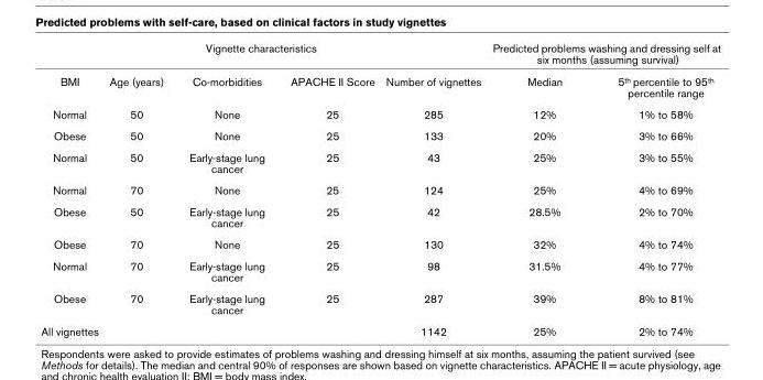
<table><thead><tr><td colspan="5">Vignette characteristics</td><td colspan="2">Predicted problems washing and dressing self at six months (assuming survival)</td></tr><tr><td>BMI</td><td>Age (years)</td><td>Co-morbidities</td><td>APACHE II Score</td><td>Number of vignettes</td><td>Median</td><td>5<sup>th</sup> percentile to 95<sup>th</sup> percentile range</td></tr></thead><tbody><tr><td>Normal</td><td>50</td><td>None</td><td>25</td><td>285</td><td>12%</td><td>1% to 58%</td></tr><tr><td>Obese</td><td>50</td><td>None</td><td>25</td><td>133</td><td>20%</td><td>3% to 66%</td></tr><tr><td>Normal</td><td>50</td><td>Early-stage lung cancer</td><td>25</td><td>43</td><td>25%</td><td>3% to 55%</td></tr><tr><td>Normal</td><td>70</td><td>None</td><td>25</td><td>124</td><td>25%</td><td>4% to 69%</td></tr><tr><td>Obese</td><td>50</td><td>Early-stage lung cancer</td><td>25</td><td>42</td><td>28.5%</td><td>2% to 70%</td></tr><tr><td>Obese</td><td>70</td><td>None</td><td>25</td><td>130</td><td>32%</td><td>4% to 74%</td></tr><tr><td>Normal</td><td>70</td><td>Early-stage lung cancer</td><td>25</td><td>98</td><td>31.5%</td><td>4% to 77%</td></tr><tr><td>Obese</td><td>70</td><td>Early-stage lung cancer</td><td>25</td><td>287</td><td>39%</td><td>8% to 81%</td></tr><tr><td>All vignettes</td><td></td><td></td><td></td><td>1142</td><td>25%</td><td>2% to 74%</td></tr></tbody></table>